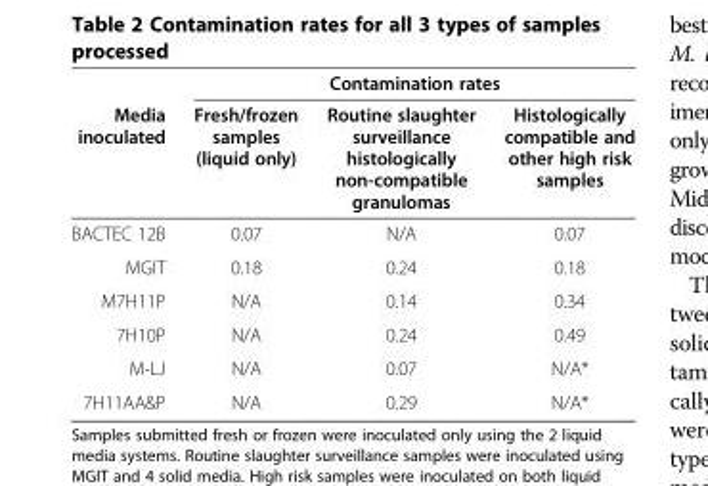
<table><thead><tr><td rowspan="2">Media inoculated</td><td colspan="3">Contamination rates</td></tr><tr><td>Fresh/frozen samples (liquid only)</td><td>Routine slaughter surveillance histologically non-compatible granulomas</td><td>Histologically compatible and other high risk samples</td></tr></thead><tbody><tr><td>BACTEC 12B</td><td>0.07</td><td>N/A</td><td>0.07</td></tr><tr><td>MGIT</td><td>0.18</td><td>0.24</td><td>0.18</td></tr><tr><td>M7H11P</td><td>N/A</td><td>0.14</td><td>0.34</td></tr><tr><td>7H10P</td><td>N/A</td><td>0.24</td><td>0.49</td></tr><tr><td>M-LJ</td><td>N/A</td><td>0.07</td><td>N/A*</td></tr><tr><td>7H11AA&amp;P</td><td>N/A</td><td>0.29</td><td>N/A*</td></tr></tbody></table>